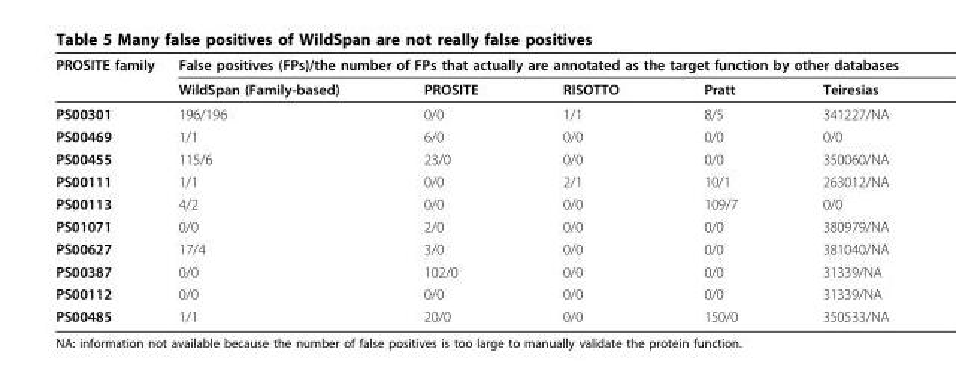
<table><thead><tr><td rowspan="2">PROSITE family</td><td colspan="5">False positives (FPs)/the number of FPs that actually are annotated as the target function by other databases</td></tr><tr><td>WildSpan (Family-based)</td><td>PROSITE</td><td>RISOTTO</td><td>Pratt</td><td>Teiresias</td></tr></thead><tbody><tr><td>PS00301</td><td>196/196</td><td>0/0</td><td>1/1</td><td>8/5</td><td>341227/NA</td></tr><tr><td>PS00469</td><td>1/1</td><td>6/0</td><td>0/0</td><td>0/0</td><td>0/0</td></tr><tr><td>PS00455</td><td>115/6</td><td>23/0</td><td>0/0</td><td>0/0</td><td>350060/NA</td></tr><tr><td>PS00111</td><td>1/1</td><td>0/0</td><td>2/1</td><td>10/1</td><td>263012/NA</td></tr><tr><td>PS00113</td><td>4/2</td><td>0/0</td><td>0/0</td><td>109/7</td><td>0/0</td></tr><tr><td>PS01071</td><td>0/0</td><td>2/0</td><td>0/0</td><td>0/0</td><td>380979/NA</td></tr><tr><td>PS00627</td><td>17/4</td><td>3/0</td><td>0/0</td><td>0/0</td><td>381040/NA</td></tr><tr><td>PS00387</td><td>0/0</td><td>102/0</td><td>0/0</td><td>0/0</td><td>31339/NA</td></tr><tr><td>PS00112</td><td>0/0</td><td>0/0</td><td>0/0</td><td>0/0</td><td>31339/NA</td></tr><tr><td>PS00485</td><td>1/1</td><td>20/0</td><td>0/0</td><td>150/0</td><td>350533/NA</td></tr></tbody></table>